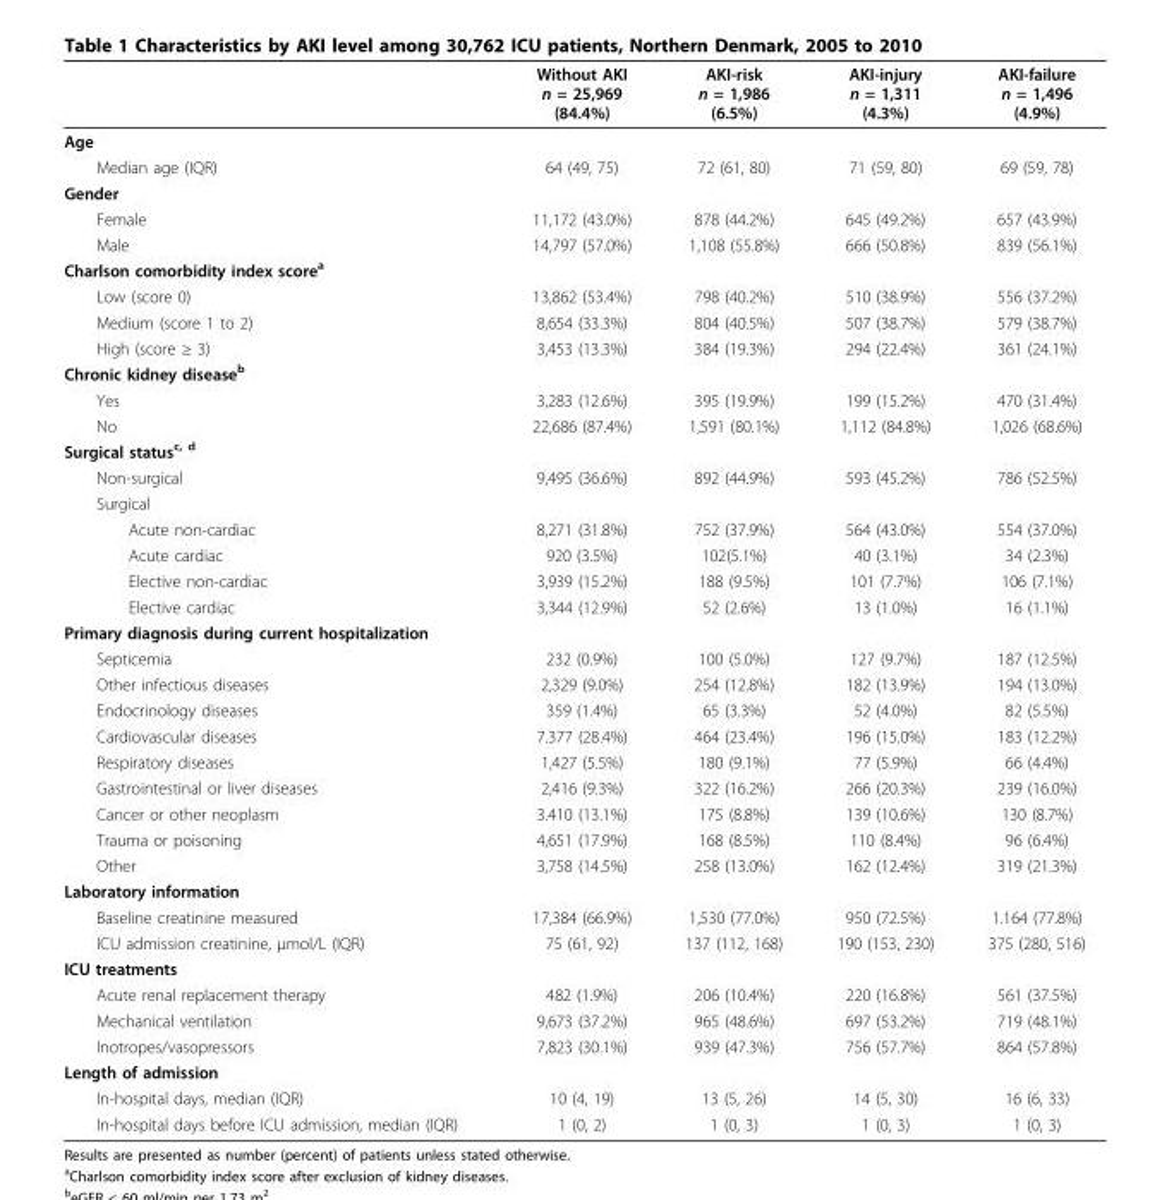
<table><thead><tr><td></td><td>Without AKI n = 25,969 (84.4%)</td><td>AKI-risk n = 1,986 (6.5%)</td><td>AKI-injury n = 1,311 (4.3%)</td><td>AKI-failure n = 1,496 (4.9%)</td></tr></thead><tbody><tr><td colspan="5">Age</td></tr><tr><td>Median age (IQR)</td><td>64 (49, 75)</td><td>72 (61, 80)</td><td>71 (59, 80)</td><td>69 (59, 78)</td></tr><tr><td colspan="5">Gender</td></tr><tr><td>Female</td><td>11,172 (43.0%)</td><td>878 (44.2%)</td><td>645 (49.2%)</td><td>657 (43.9%)</td></tr><tr><td>Male</td><td>14,797 (57.0%)</td><td>1,108 (55.8%)</td><td>666 (50.8%)</td><td>839 (56.1%)</td></tr><tr><td colspan="5">Charlson comorbidity index score<sup>a</sup></td></tr><tr><td>Low (score 0)</td><td>13,862 (53.4%)</td><td>798 (40.2%)</td><td>510 (38.9%)</td><td>556 (37.2%)</td></tr><tr><td>Medium (score 1 to 2)</td><td>8,654 (33.3%)</td><td>804 (40.5%)</td><td>507 (38.7%)</td><td>579 (38.7%)</td></tr><tr><td>High (score ≥ 3)</td><td>3,453 (13.3%)</td><td>384 (19.3%)</td><td>294 (22.4%)</td><td>361 (24.1%)</td></tr><tr><td colspan="5">Chronic kidney disease<sup>b</sup></td></tr><tr><td>Yes</td><td>3,283 (12.6%)</td><td>395 (19.9%)</td><td>199 (15.2%)</td><td>470 (31.4%)</td></tr><tr><td>No</td><td>22,686 (87.4%)</td><td>1,591 (80.1%)</td><td>1,112 (84.8%)</td><td>1,026 (68.6%)</td></tr><tr><td colspan="5">Surgical status<sup>c, d</sup></td></tr><tr><td>Non-surgical</td><td>9,495 (36.6%)</td><td>892 (44.9%)</td><td>593 (45.2%)</td><td>786 (52.5%)</td></tr><tr><td colspan="5">Surgical</td></tr><tr><td>Acute non-cardiac</td><td>8,271 (31.8%)</td><td>752 (37.9%)</td><td>564 (43.0%)</td><td>554 (37.0%)</td></tr><tr><td>Acute cardiac</td><td>920 (3.5%)</td><td>102(5.1%)</td><td>40 (3.1%)</td><td>34 (2.3%)</td></tr><tr><td>Elective non-cardiac</td><td>3,939 (15.2%)</td><td>188 (9.5%)</td><td>101 (7.7%)</td><td>106 (7.1%)</td></tr><tr><td>Elective cardiac</td><td>3,344 (12.9%)</td><td>52 (2.6%)</td><td>13 (1.0%)</td><td>16 (1.1%)</td></tr><tr><td colspan="5">Primary diagnosis during current hospitalization</td></tr><tr><td>Septicemia</td><td>232 (0.9%)</td><td>100 (5.0%)</td><td>127 (9.7%)</td><td>187 (12.5%)</td></tr><tr><td>Other infectious diseases</td><td>2,329 (9.0%)</td><td>254 (12.8%)</td><td>182 (13.9%)</td><td>194 (13.0%)</td></tr><tr><td>Endocrinology diseases</td><td>359 (1.4%)</td><td>65 (3.3%)</td><td>52 (4.0%)</td><td>82 (5.5%)</td></tr><tr><td>Cardiovascular diseases</td><td>7.377 (28.4%)</td><td>464 (23.4%)</td><td>196 (15.0%)</td><td>183 (12.2%)</td></tr><tr><td>Respiratory diseases</td><td>1,427 (5.5%)</td><td>180 (9.1%)</td><td>77 (5.9%)</td><td>66 (4.4%)</td></tr><tr><td>Gastrointestinal or liver diseases</td><td>2,416 (9.3%)</td><td>322 (16.2%)</td><td>266 (20.3%)</td><td>239 (16.0%)</td></tr><tr><td>Cancer or other neoplasm</td><td>3.410 (13.1%)</td><td>175 (8.8%)</td><td>139 (10.6%)</td><td>130 (8.7%)</td></tr><tr><td>Trauma or poisoning</td><td>4,651 (17.9%)</td><td>168 (8.5%)</td><td>110 (8.4%)</td><td>96 (6.4%)</td></tr><tr><td>Other</td><td>3,758 (14.5%)</td><td>258 (13.0%)</td><td>162 (12.4%)</td><td>319 (21.3%)</td></tr><tr><td colspan="5">Laboratory information</td></tr><tr><td>Baseline creatinine measured</td><td>17,384 (66.9%)</td><td>1,530 (77.0%)</td><td>950 (72.5%)</td><td>1.164 (77.8%)</td></tr><tr><td>ICU admission creatinine, μmol/L (IQR)</td><td>75 (61, 92)</td><td>137 (112, 168)</td><td>190 (153, 230)</td><td>375 (280, 516)</td></tr><tr><td colspan="5">ICU treatments</td></tr><tr><td>Acute renal replacement therapy</td><td>482 (1.9%)</td><td>206 (10.4%)</td><td>220 (16.8%)</td><td>561 (37.5%)</td></tr><tr><td>Mechanical ventilation</td><td>9,673 (37.2%)</td><td>965 (48.6%)</td><td>697 (53.2%)</td><td>719 (48.1%)</td></tr><tr><td>Inotropes/vasopressors</td><td>7,823 (30.1%)</td><td>939 (47.3%)</td><td>756 (57.7%)</td><td>864 (57.8%)</td></tr><tr><td colspan="5">Length of admission</td></tr><tr><td>In-hospital days, median (IQR)</td><td>10 (4, 19)</td><td>13 (5, 26)</td><td>14 (5, 30)</td><td>16 (6, 33)</td></tr><tr><td>In-hospital days before ICU admission, median (IQR)</td><td>1 (0, 2)</td><td>1 (0, 3)</td><td>1 (0, 3)</td><td>1 (0, 3)</td></tr></tbody></table>